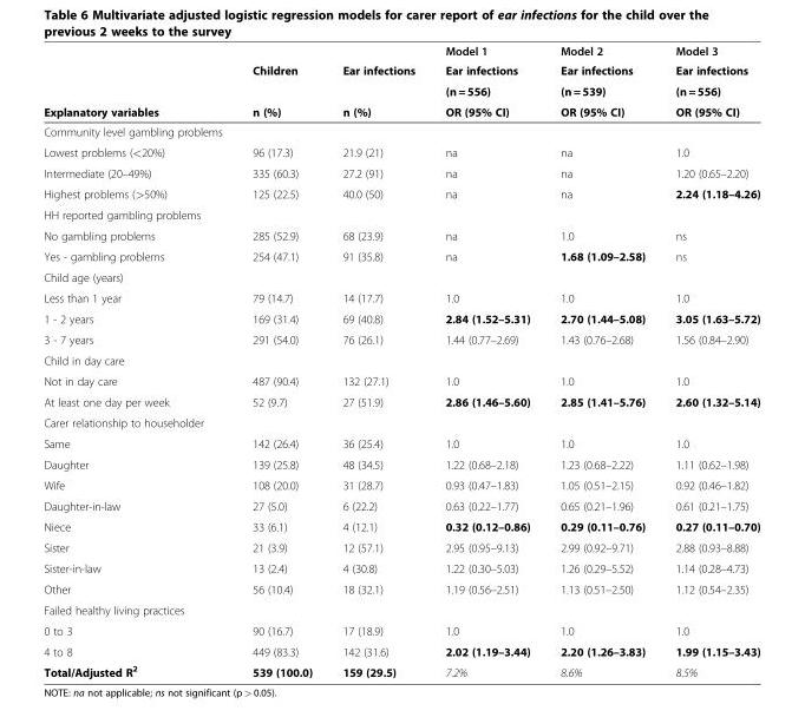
<table><thead><tr><td></td><td></td><td></td><td>Model 1</td><td>Model 2</td><td>Model 3</td></tr></thead><tbody><tr><td rowspan="2"></td><td rowspan="2">Children</td><td rowspan="2">Ear infections</td><td>Ear infections</td><td>Ear infections</td><td>Ear infections</td></tr><tr><td>(n = 556)</td><td>(n = 539)</td><td>(n = 556)</td></tr><tr><td>Explanatory variables</td><td>n (%)</td><td>n (%)</td><td>OR (95% CI)</td><td>OR (95% CI)</td><td>OR (95% CI)</td></tr><tr><td colspan="6">Community level gambling problems</td></tr><tr><td>Lowest problems (&lt;20%)</td><td>96 (17.3)</td><td>21.9 (21)</td><td>na</td><td>na</td><td>1.0</td></tr><tr><td>Intermediate (20–49%)</td><td>335 (60.3)</td><td>27.2 (91)</td><td>na</td><td>na</td><td>1.20 (0.65–2.20)</td></tr><tr><td>Highest problems (&gt;50%)</td><td>125 (22.5)</td><td>40.0 (50)</td><td>na</td><td>na</td><td>2.24 (1.18–4.26)</td></tr><tr><td colspan="6">HH reported gambling problems</td></tr><tr><td>No gambling problems</td><td>285 (52.9)</td><td>68 (23.9)</td><td>na</td><td>1.0</td><td>ns</td></tr><tr><td>Yes - gambling problems</td><td>254 (47.1)</td><td>91 (35.8)</td><td>na</td><td>1.68 (1.09–2.58)</td><td>ns</td></tr><tr><td colspan="6">Child age (years)</td></tr><tr><td>Less than 1 year</td><td>79 (14.7)</td><td>14 (17.7)</td><td>1.0</td><td>1.0</td><td>1.0</td></tr><tr><td>1 - 2 years</td><td>169 (31.4)</td><td>69 (40.8)</td><td>2.84 (1.52–5.31)</td><td>2.70 (1.44–5.08)</td><td>3.05 (1.63–5.72)</td></tr><tr><td>3 - 7 years</td><td>291 (54.0)</td><td>76 (26.1)</td><td>1.44 (0.77–2.69)</td><td>1.43 (0.76–2.68)</td><td>1.56 (0.84–2.90)</td></tr><tr><td colspan="6">Child in day care</td></tr><tr><td>Not in day care</td><td>487 (90.4)</td><td>132 (27.1)</td><td>1.0</td><td>1.0</td><td>1.0</td></tr><tr><td>At least one day per week</td><td>52 (9.7)</td><td>27 (51.9)</td><td>2.86 (1.46–5.60)</td><td>2.85 (1.41–5.76)</td><td>2.60 (1.32–5.14)</td></tr><tr><td colspan="6">Carer relationship to householder</td></tr><tr><td>Same</td><td>142 (26.4)</td><td>36 (25.4)</td><td>1.0</td><td>1.0</td><td>1.0</td></tr><tr><td>Daughter</td><td>139 (25.8)</td><td>48 (34.5)</td><td>1.22 (0.68–2.18)</td><td>1.23 (0.68–2.22)</td><td>1.11 (0.62–1.98)</td></tr><tr><td>Wife</td><td>108 (20.0)</td><td>31 (28.7)</td><td>0.93 (0.47–1.83)</td><td>1.05 (0.51–2.15)</td><td>0.92 (0.46–1.82)</td></tr><tr><td>Daughter-in-law</td><td>27 (5.0)</td><td>6 (22.2)</td><td>0.63 (0.22–1.77)</td><td>0.65 (0.21–1.96)</td><td>0.61 (0.21–1.75)</td></tr><tr><td>Niece</td><td>33 (6.1)</td><td>4 (12.1)</td><td>0.32 (0.12–0.86)</td><td>0.29 (0.11–0.76)</td><td>0.27 (0.11–0.70)</td></tr><tr><td>Sister</td><td>21 (3.9)</td><td>12 (57.1)</td><td>2.95 (0.95–9.13)</td><td>2.99 (0.92–9.71)</td><td>2.88 (0.93–8.88)</td></tr><tr><td>Sister-in-law</td><td>13 (2.4)</td><td>4 (30.8)</td><td>1.22 (0.30–5.03)</td><td>1.26 (0.29–5.52)</td><td>1.14 (0.28–4.73)</td></tr><tr><td>Other</td><td>56 (10.4)</td><td>18 (32.1)</td><td>1.19 (0.56–2.51)</td><td>1.13 (0.51–2.50)</td><td>1.12 (0.54–2.35)</td></tr><tr><td colspan="6">Failed healthy living practices</td></tr><tr><td>0 to 3</td><td>90 (16.7)</td><td>17 (18.9)</td><td>1.0</td><td>1.0</td><td>1.0</td></tr><tr><td>4 to 8</td><td>449 (83.3)</td><td>142 (31.6)</td><td>2.02 (1.19–3.44)</td><td>2.20 (1.26–3.83)</td><td>1.99 (1.15–3.43)</td></tr><tr><td>Total/Adjusted R<sup>2</sup></td><td>539 (100.0)</td><td>159 (29.5)</td><td>7.2%</td><td>8.6%</td><td>8.5%</td></tr></tbody></table>